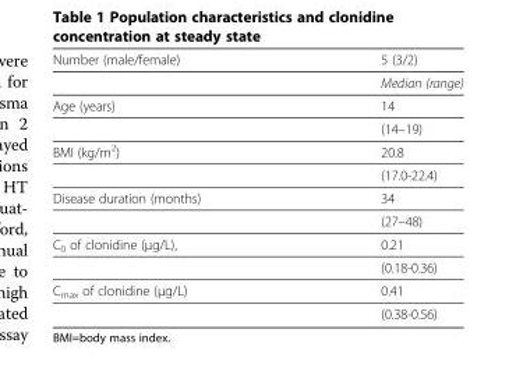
<table><tbody><tr><td rowspan="2">Number (male/female)</td><td>5 (3/2)</td></tr><tr><td>Median (range)</td></tr><tr><td rowspan="2">Age (years)</td><td>14</td></tr><tr><td>(14–19)</td></tr><tr><td rowspan="2">BMI (kg/m<sup>2</sup>)</td><td>20.8</td></tr><tr><td>(17.0-22.4)</td></tr><tr><td rowspan="2">Disease duration (months)</td><td>34</td></tr><tr><td>(27–48)</td></tr><tr><td rowspan="2">C<sub>0</sub> of clonidine (μg/L),</td><td>0.21</td></tr><tr><td>(0.18-0.36)</td></tr><tr><td rowspan="2">C<sub>max</sub> of clonidine (μg/L)</td><td>0.41</td></tr><tr><td>(0.38-0.56)</td></tr></tbody></table>